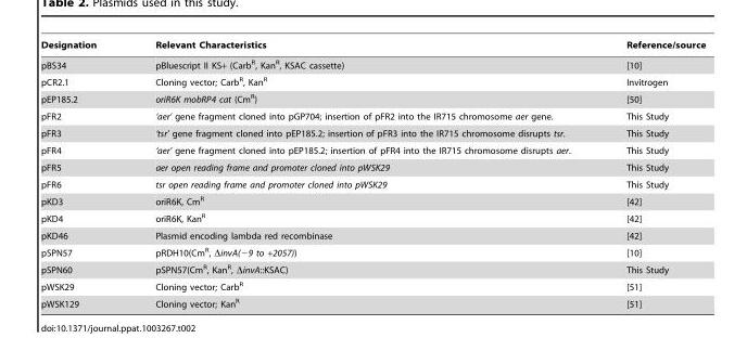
<table><thead><tr><td>Designation</td><td>Relevant Characteristics</td><td>Reference/source</td></tr></thead><tbody><tr><td>pBS34</td><td>pBluescript II KS+ (Carb<sup>R</sup>, Kan<sup>R</sup>, KSAC cassette)</td><td>[10]</td></tr><tr><td>pCR2.1</td><td>Cloning vector; Carb<sup>R</sup>, Kan<sup>R</sup></td><td>Invitrogen</td></tr><tr><td>pEP185.2</td><td>oriR6K mobRP4 cat (Cm<sup>R</sup>)</td><td>[50]</td></tr><tr><td>pFR2</td><td>‘aer’ gene fragment cloned into pGP704; insertion of pFR2 into the IR715 chromosome aer gene.</td><td>This Study</td></tr><tr><td>pFR3</td><td>‘tsr’ gene fragment cloned into pEP185.2; insertion of pFR3 into the IR715 chromosome disrupts tsr.</td><td>This Study</td></tr><tr><td>pFR4</td><td>‘aer’ gene fragment cloned into pEP185.2; insertion of pFR4 into the IR715 chromosome disrupts aer.</td><td>This Study</td></tr><tr><td>pFR5</td><td>aer open reading frame and promoter cloned into pWSK29</td><td>This Study</td></tr><tr><td>pFR6</td><td>tsr open reading frame and promoter cloned into pWSK29</td><td>This Study</td></tr><tr><td>pKD3</td><td>oriR6K, Cm<sup>R</sup></td><td>[42]</td></tr><tr><td>pKD4</td><td>oriR6K, Kan<sup>R</sup></td><td>[42]</td></tr><tr><td>pKD46</td><td>Plasmid encoding lambda red recombinase</td><td>[42]</td></tr><tr><td>pSPN57</td><td>pRDH10(Cm<sup>R</sup>, ΔinvA(−9 to +2057))</td><td>[10]</td></tr><tr><td>pSPN60</td><td>pSPN57(Cm<sup>R</sup>, Kan<sup>R</sup>, ΔinvA::KSAC)</td><td>This Study</td></tr><tr><td>pWSK29</td><td>Cloning vector; Carb<sup>R</sup></td><td>[51]</td></tr><tr><td>pWSK129</td><td>Cloning vector; Kan<sup>R</sup></td><td>[51]</td></tr></tbody></table>